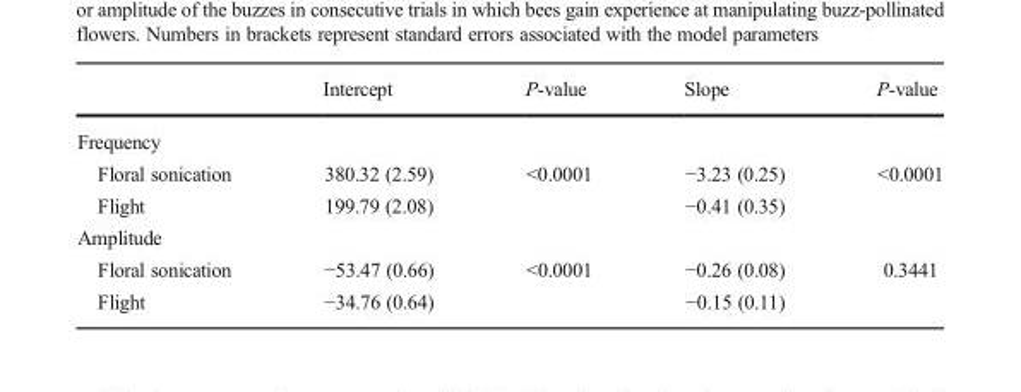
<table><thead><tr><td></td><td>Intercept</td><td>P-value</td><td>Slope</td><td>P-value</td></tr></thead><tbody><tr><td colspan="5">Frequency</td></tr><tr><td>Floral sonication</td><td>380.32 (2.59)</td><td>&lt;0.0001</td><td>−3.23 (0.25)</td><td>&lt;0.0001</td></tr><tr><td>Flight</td><td>199.79 (2.08)</td><td></td><td>−0.41 (0.35)</td><td></td></tr><tr><td colspan="5">Amplitude</td></tr><tr><td>Floral sonication</td><td>−53.47 (0.66)</td><td>&lt;0.0001</td><td>−0.26 (0.08)</td><td>0.3441</td></tr><tr><td>Flight</td><td>−34.76 (0.64)</td><td></td><td>−0.15 (0.11)</td><td></td></tr></tbody></table>